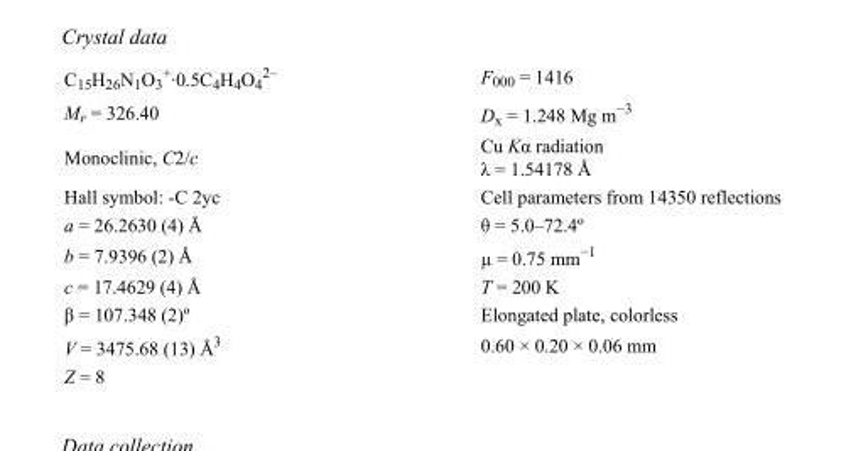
<table><tbody><tr><td>C15H26N1O3 +·0.5C4H4O4 2–</td><td>F000 = 1416</td></tr><tr><td>M<sub>r</sub> = 326.40</td><td>D<sub>x</sub> = 1.248 Mg m<sup>−3</sup></td></tr><tr><td>Monoclinic, C2/c</td><td>Cu Kα radiation λ = 1.54178 Å</td></tr><tr><td>Hall symbol: -C 2yc</td><td>Cell parameters from 14350 reflections</td></tr><tr><td>a = 26.2630 (4) Å</td><td>θ = 5.0–72.4º</td></tr><tr><td>b = 7.9396 (2) Å</td><td>µ = 0.75 mm<sup>−1</sup></td></tr><tr><td>c = 17.4629 (4) Å</td><td>T = 200 K</td></tr><tr><td>β = 107.348 (2)º</td><td>Elongated plate, colorless</td></tr><tr><td>V = 3475.68 (13) Å<sup>3</sup></td><td>0.60 × 0.20 × 0.06 mm</td></tr><tr><td>Z = 8</td><td></td></tr></tbody></table>